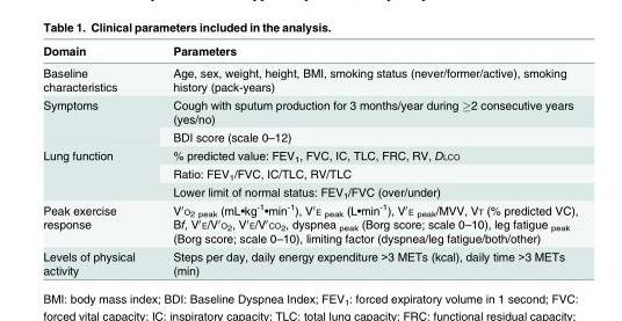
<table><thead><tr><td>Domain</td><td>Parameters</td></tr></thead><tbody><tr><td>Baseline characteristics</td><td>Age, sex, weight, height, BMI, smoking status (never/former/active), smoking history (pack-years)</td></tr><tr><td rowspan="2">Symptoms</td><td>Cough with sputum production for 3 months/year during ≥2 consecutive years (yes/no)</td></tr><tr><td>BDI score (scale 0–12)</td></tr><tr><td rowspan="3">Lung function</td><td>% predicted value: FEV<sub>1</sub>, FVC, IC, TLC, FRC, RV, DLCO</td></tr><tr><td>Ratio: FEV<sub>1</sub>/FVC, IC/TLC, RV/TLC</td></tr><tr><td>Lower limit of normal status: FEV<sub>1</sub>/FVC (over/under)</td></tr><tr><td>Peak exercise response</td><td>V′O<sub>2 peak</sub> (mL•kg<sup>-1</sup>•min<sup>-1</sup>), V′E <sub>peak</sub> (L•min<sup>-1</sup>), V′E <sub>peak</sub>/MVV, VT (% predicted VC), Bf, V′E/V′O<sub>2</sub>, V′E/V′CO<sub>2</sub>, dyspnea <sub>peak</sub> (Borg score; scale 0–10), leg fatigue <sub>peak</sub> (Borg score; scale 0–10), limiting factor (dyspnea/leg fatigue/both/other)</td></tr><tr><td>Levels of physical activity</td><td>Steps per day, daily energy expenditure &gt;3 METs (kcal), daily time &gt;3 METs (min)</td></tr></tbody></table>